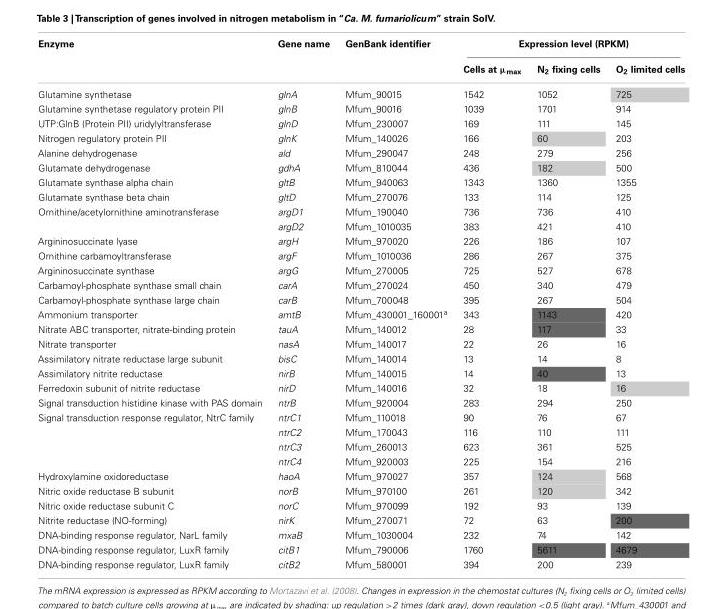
<table><thead><tr><td rowspan="2">Enzyme</td><td rowspan="2">Gene name</td><td rowspan="2">GenBank identifier</td><td colspan="3">Expression level (RPKM)</td></tr><tr><td>Cells at µ<sub>max</sub></td><td>N<sub>2</sub> fixing cells</td><td>O<sub>2</sub> limited cells</td></tr></thead><tbody><tr><td>Glutamine synthetase</td><td>glnA</td><td>Mfum_90015</td><td>1542</td><td>1052</td><td>725</td></tr><tr><td>Glutamine synthetase regulatory protein PII</td><td>glnB</td><td>Mfum_90016</td><td>1039</td><td>1701</td><td>914</td></tr><tr><td>UTP:GlnB (Protein PII) uridylyltransferase</td><td>glnD</td><td>Mfum_230007</td><td>169</td><td>111</td><td>145</td></tr><tr><td>Nitrogen regulatory protein PII</td><td>glnK</td><td>Mfum_140026</td><td>166</td><td>60</td><td>203</td></tr><tr><td>Alanine dehydrogenase</td><td>ald</td><td>Mfum_290047</td><td>248</td><td>279</td><td>256</td></tr><tr><td>Glutamate dehydrogenase</td><td>gdhA</td><td>Mfum_810044</td><td>436</td><td>182</td><td>500</td></tr><tr><td>Glutamate synthase alpha chain</td><td>gltB</td><td>Mfum_940063</td><td>1343</td><td>1360</td><td>1355</td></tr><tr><td>Glutamate synthase beta chain</td><td>gltD</td><td>Mfum_270076</td><td>133</td><td>114</td><td>125</td></tr><tr><td rowspan="2">Ornithine/acetylornithine aminotransferase</td><td>argD1</td><td>Mfum_190040</td><td>736</td><td>736</td><td>410</td></tr><tr><td>argD2</td><td>Mfum_1010035</td><td>383</td><td>421</td><td>410</td></tr><tr><td>Argininosuccinate lyase</td><td>argH</td><td>Mfum_970020</td><td>226</td><td>186</td><td>107</td></tr><tr><td>Ornithine carbamoyltransferase</td><td>argF</td><td>Mfum_1010036</td><td>286</td><td>267</td><td>375</td></tr><tr><td>Argininosuccinate synthase</td><td>argG</td><td>Mfum_270005</td><td>725</td><td>527</td><td>678</td></tr><tr><td>Carbamoyl-phosphate synthase small chain</td><td>carA</td><td>Mfum_270024</td><td>450</td><td>340</td><td>479</td></tr><tr><td>Carbamoyl-phosphate synthase large chain</td><td>carB</td><td>Mfum_700048</td><td>395</td><td>267</td><td>504</td></tr><tr><td>Ammonium transporter</td><td>amtB</td><td>Mfum_430001_160001<sup>a</sup></td><td>343</td><td>1143</td><td>420</td></tr><tr><td>Nitrate ABC transporter, nitrate-binding protein</td><td>tauA</td><td>Mfum_140012</td><td>28</td><td>117</td><td>33</td></tr><tr><td>Nitrate transporter</td><td>nasA</td><td>Mfum_140017</td><td>22</td><td>26</td><td>16</td></tr><tr><td>Assimilatory nitrate reductase large subunit</td><td>bisC</td><td>Mfum_140014</td><td>13</td><td>14</td><td>8</td></tr><tr><td>Assimilatory nitrite reductase</td><td>nirB</td><td>Mfum_140015</td><td>14</td><td>40</td><td>13</td></tr><tr><td>Ferredoxin subunit of nitrite reductase</td><td>nirD</td><td>Mfum_140016</td><td>32</td><td>18</td><td>16</td></tr><tr><td>Signal transduction histidine kinase with PAS domain</td><td>ntrB</td><td>Mfum_920004</td><td>283</td><td>294</td><td>250</td></tr><tr><td rowspan="4">Signal transduction response regulator, NtrC family</td><td>ntrC1</td><td>Mfum_110018</td><td>90</td><td>76</td><td>67</td></tr><tr><td>ntrC2</td><td>Mfum_170043</td><td>116</td><td>110</td><td>111</td></tr><tr><td>ntrC3</td><td>Mfum_260013</td><td>623</td><td>361</td><td>525</td></tr><tr><td>ntrC4</td><td>Mfum_920003</td><td>225</td><td>154</td><td>216</td></tr><tr><td>Hydroxylamine oxidoreductase</td><td>haoA</td><td>Mfum_970027</td><td>357</td><td>124</td><td>568</td></tr><tr><td>Nitric oxide reductase B subunit</td><td>norB</td><td>Mfum_970100</td><td>261</td><td>120</td><td>342</td></tr><tr><td>Nitric oxide reductase subunit C</td><td>norC</td><td>Mfum_970099</td><td>192</td><td>93</td><td>139</td></tr><tr><td>Nitrite reductase (NO-forming)</td><td>nirK</td><td>Mfum_270071</td><td>72</td><td>63</td><td>200</td></tr><tr><td>DNA-binding response regulator, NarL family</td><td>mxaB</td><td>Mfum_1030004</td><td>232</td><td>74</td><td>142</td></tr><tr><td>DNA-binding response regulator, LuxR family</td><td>citB1</td><td>Mfum_790006</td><td>1760</td><td>5611</td><td>4679</td></tr><tr><td>DNA-binding response regulator, LuxR family</td><td>citB2</td><td>Mfum_580001</td><td>394</td><td>200</td><td>239</td></tr></tbody></table>